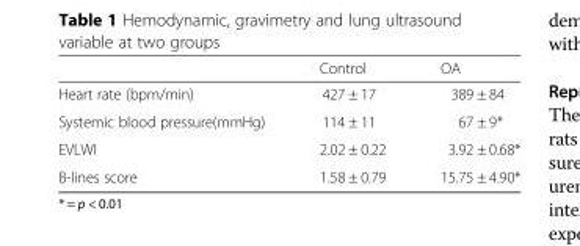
<table><thead><tr><td></td><td>Control</td><td>OA</td></tr></thead><tbody><tr><td>Heart rate (bpm/min)</td><td>427 ± 17</td><td>389 ± 84</td></tr><tr><td>Systemic blood pressure(mmHg)</td><td>114 ± 11</td><td>67 ± 9*</td></tr><tr><td>EVLWI</td><td>2.02 ± 0.22</td><td>3.92 ± 0.68*</td></tr><tr><td>B-lines score</td><td>1.58 ± 0.79</td><td>15.75 ± 4.90*</td></tr></tbody></table>